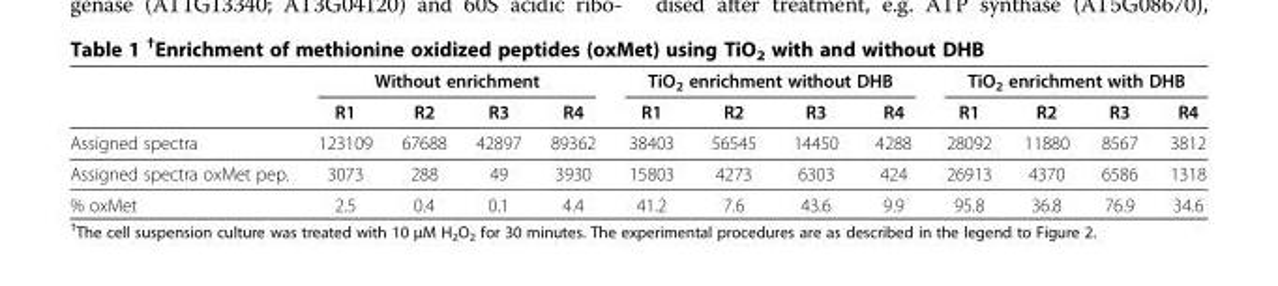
<table><thead><tr><td rowspan="2"></td><td colspan="4">Without enrichment</td><td colspan="4">TiO<sub>2</sub> enrichment without DHB</td><td colspan="4">TiO<sub>2</sub> enrichment with DHB</td></tr><tr><td>R1</td><td>R2</td><td>R3</td><td>R4</td><td>R1</td><td>R2</td><td>R3</td><td>R4</td><td>R1</td><td>R2</td><td>R3</td><td>R4</td></tr></thead><tbody><tr><td>Assigned spectra</td><td>123109</td><td>67688</td><td>42897</td><td>89362</td><td>38403</td><td>56545</td><td>14450</td><td>4288</td><td>28092</td><td>11880</td><td>8567</td><td>3812</td></tr><tr><td>Assigned spectra oxMet pep.</td><td>3073</td><td>288</td><td>49</td><td>3930</td><td>15803</td><td>4273</td><td>6303</td><td>424</td><td>26913</td><td>4370</td><td>6586</td><td>1318</td></tr><tr><td>% oxMet</td><td>2.5</td><td>0.4</td><td>0.1</td><td>4.4</td><td>41.2</td><td>7.6</td><td>43.6</td><td>9.9</td><td>95.8</td><td>36.8</td><td>76.9</td><td>34.6</td></tr></tbody></table>